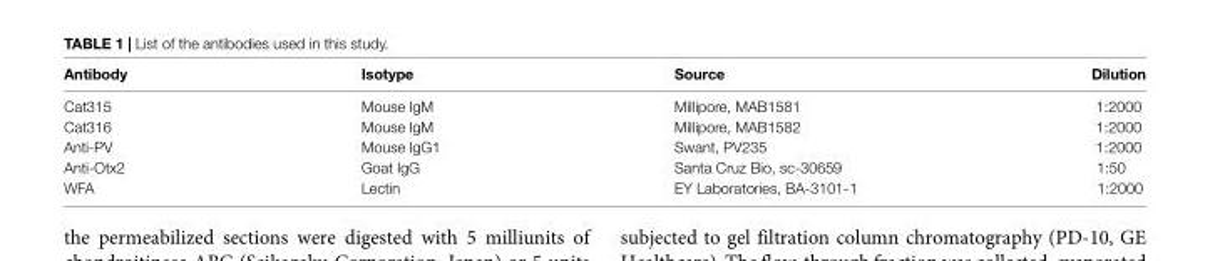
<table><thead><tr><td>Antibody</td><td>Isotype</td><td>Source</td><td>Dilution</td></tr></thead><tbody><tr><td>Cat315</td><td>Mouse IgM</td><td>Millipore, MAB1581</td><td>1:2000</td></tr><tr><td>Cat316</td><td>Mouse IgM</td><td>Millipore, MAB1582</td><td>1:2000</td></tr><tr><td>Anti-PV</td><td>Mouse IgG1</td><td>Swant, PV235</td><td>1:2000</td></tr><tr><td>Anti-Otx2</td><td>Goat IgG</td><td>Santa Cruz Bio, sc-30659</td><td>1:50</td></tr><tr><td>WFA</td><td>Lectin</td><td>EY Laboratories, BA-3101-1</td><td>1:2000</td></tr></tbody></table>